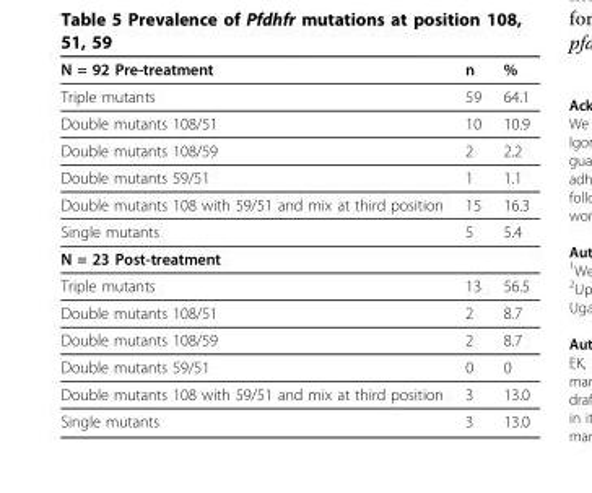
<table><thead><tr><td>N = 92 Pre-treatment</td><td>n</td><td>%</td></tr></thead><tbody><tr><td>Triple mutants</td><td>59</td><td>64.1</td></tr><tr><td>Double mutants 108/51</td><td>10</td><td>10.9</td></tr><tr><td>Double mutants 108/59</td><td>2</td><td>2.2</td></tr><tr><td>Double mutants 59/51</td><td>1</td><td>1.1</td></tr><tr><td>Double mutants 108 with 59/51 and mix at third position</td><td>15</td><td>16.3</td></tr><tr><td>Single mutants</td><td>5</td><td>5.4</td></tr><tr><td colspan="3">N = 23 Post-treatment</td></tr><tr><td>Triple mutants</td><td>13</td><td>56.5</td></tr><tr><td>Double mutants 108/51</td><td>2</td><td>8.7</td></tr><tr><td>Double mutants 108/59</td><td>2</td><td>8.7</td></tr><tr><td>Double mutants 59/51</td><td>0</td><td>0</td></tr><tr><td>Double mutants 108 with 59/51 and mix at third position</td><td>3</td><td>13.0</td></tr><tr><td>Single mutants</td><td>3</td><td>13.0</td></tr></tbody></table>